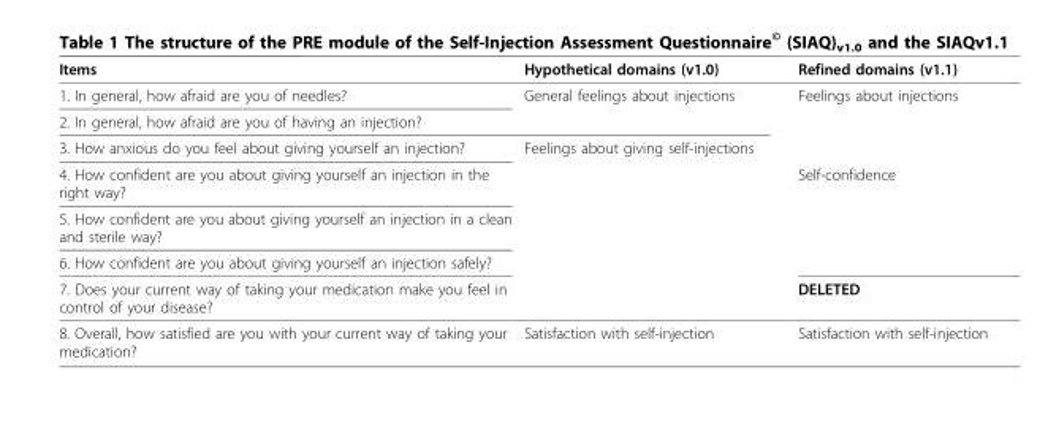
<table><thead><tr><td>Items</td><td>Hypothetical domains (v1.0)</td><td>Refined domains (v1.1)</td></tr></thead><tbody><tr><td>1. In general, how afraid are you of needles?</td><td>General feelings about injections</td><td>Feelings about injections</td></tr><tr><td colspan="3">2. In general, how afraid are you of having an injection?</td></tr><tr><td>3. How anxious do you feel about giving yourself an injection?</td><td>Feelings about giving self-injections</td><td></td></tr><tr><td>4. How confident are you about giving yourself an injection in the right way?</td><td></td><td>Self-confidence</td></tr><tr><td colspan="3">5. How confident are you about giving yourself an injection in a clean and sterile way?</td></tr><tr><td colspan="3">6. How confident are you about giving yourself an injection safely?</td></tr><tr><td>7. Does your current way of taking your medication make you feel in control of your disease?</td><td></td><td>DELETED</td></tr><tr><td>8. Overall, how satisfied are you with your current way of taking your medication?</td><td>Satisfaction with self-injection</td><td>Satisfaction with self-injection</td></tr></tbody></table>